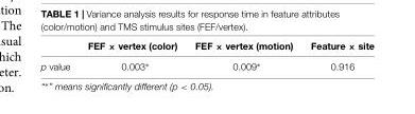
<table><thead><tr><td></td><td>FEF × vertex (color)</td><td>FEF × vertex (motion)</td><td>Feature × site</td></tr></thead><tbody><tr><td>p value</td><td>0.003∗</td><td>0.009∗</td><td>0.916</td></tr></tbody></table>